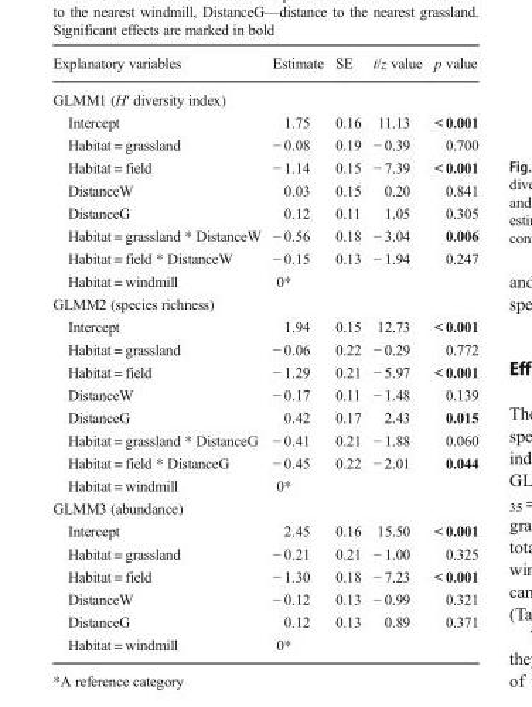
<table><thead><tr><td>Explanatory variables</td><td>Estimate</td><td>SE</td><td>t/z value</td><td>p value</td></tr></thead><tbody><tr><td colspan="5">GLMM1 (H′ diversity index)</td></tr><tr><td>Intercept</td><td>1.75</td><td>0.16</td><td>11.13</td><td>&lt; 0.001</td></tr><tr><td>Habitat = grassland</td><td>− 0.08</td><td>0.19</td><td>− 0.39</td><td>0.700</td></tr><tr><td>Habitat = field</td><td>− 1.14</td><td>0.15</td><td>− 7.39</td><td>&lt; 0.001</td></tr><tr><td>DistanceW</td><td>0.03</td><td>0.15</td><td>0.20</td><td>0.841</td></tr><tr><td>DistanceG</td><td>0.12</td><td>0.11</td><td>1.05</td><td>0.305</td></tr><tr><td>Habitat = grassland * DistanceW</td><td>− 0.56</td><td>0.18</td><td>− 3.04</td><td>0.006</td></tr><tr><td>Habitat = field * DistanceW</td><td>− 0.15</td><td>0.13</td><td>− 1.94</td><td>0.247</td></tr><tr><td>Habitat = windmill</td><td>0*</td><td></td><td></td><td></td></tr><tr><td colspan="5">GLMM2 (species richness)</td></tr><tr><td>Intercept</td><td>1.94</td><td>0.15</td><td>12.73</td><td>&lt; 0.001</td></tr><tr><td>Habitat = grassland</td><td>− 0.06</td><td>0.22</td><td>− 0.29</td><td>0.772</td></tr><tr><td>Habitat = field</td><td>− 1.29</td><td>0.21</td><td>− 5.97</td><td>&lt; 0.001</td></tr><tr><td>DistanceW</td><td>− 0.17</td><td>0.11</td><td>− 1.48</td><td>0.139</td></tr><tr><td>DistanceG</td><td>0.42</td><td>0.17</td><td>2.43</td><td>0.015</td></tr><tr><td>Habitat = grassland * DistanceG</td><td>− 0.41</td><td>0.21</td><td>− 1.88</td><td>0.060</td></tr><tr><td>Habitat = field * DistanceG</td><td>− 0.45</td><td>0.22</td><td>− 2.01</td><td>0.044</td></tr><tr><td>Habitat = windmill</td><td>0*</td><td></td><td></td><td></td></tr><tr><td colspan="5">GLMM3 (abundance)</td></tr><tr><td>Intercept</td><td>2.45</td><td>0.16</td><td>15.50</td><td>&lt; 0.001</td></tr><tr><td>Habitat = grassland</td><td>− 0.21</td><td>0.21</td><td>− 1.00</td><td>0.325</td></tr><tr><td>Habitat = field</td><td>− 1.30</td><td>0.18</td><td>− 7.23</td><td>&lt; 0.001</td></tr><tr><td>DistanceW</td><td>− 0.12</td><td>0.13</td><td>− 0.99</td><td>0.321</td></tr><tr><td>DistanceG</td><td>0.12</td><td>0.13</td><td>0.89</td><td>0.371</td></tr><tr><td>Habitat = windmill</td><td>0*</td><td></td><td></td><td></td></tr></tbody></table>